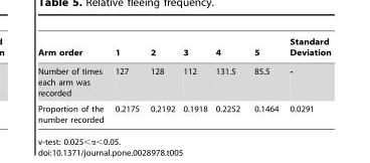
<table><thead><tr><td>Arm order</td><td>1</td><td>2</td><td>3</td><td>4</td><td>5</td><td>Standard Deviation</td></tr></thead><tbody><tr><td>Number of times each arm was recorded</td><td>127</td><td>128</td><td>112</td><td>131.5</td><td>85.5</td><td>-</td></tr><tr><td>Proportion of the number recorded</td><td>0.2175</td><td>0.2192</td><td>0.1918</td><td>0.2252</td><td>0.1464</td><td>0.0291</td></tr></tbody></table>